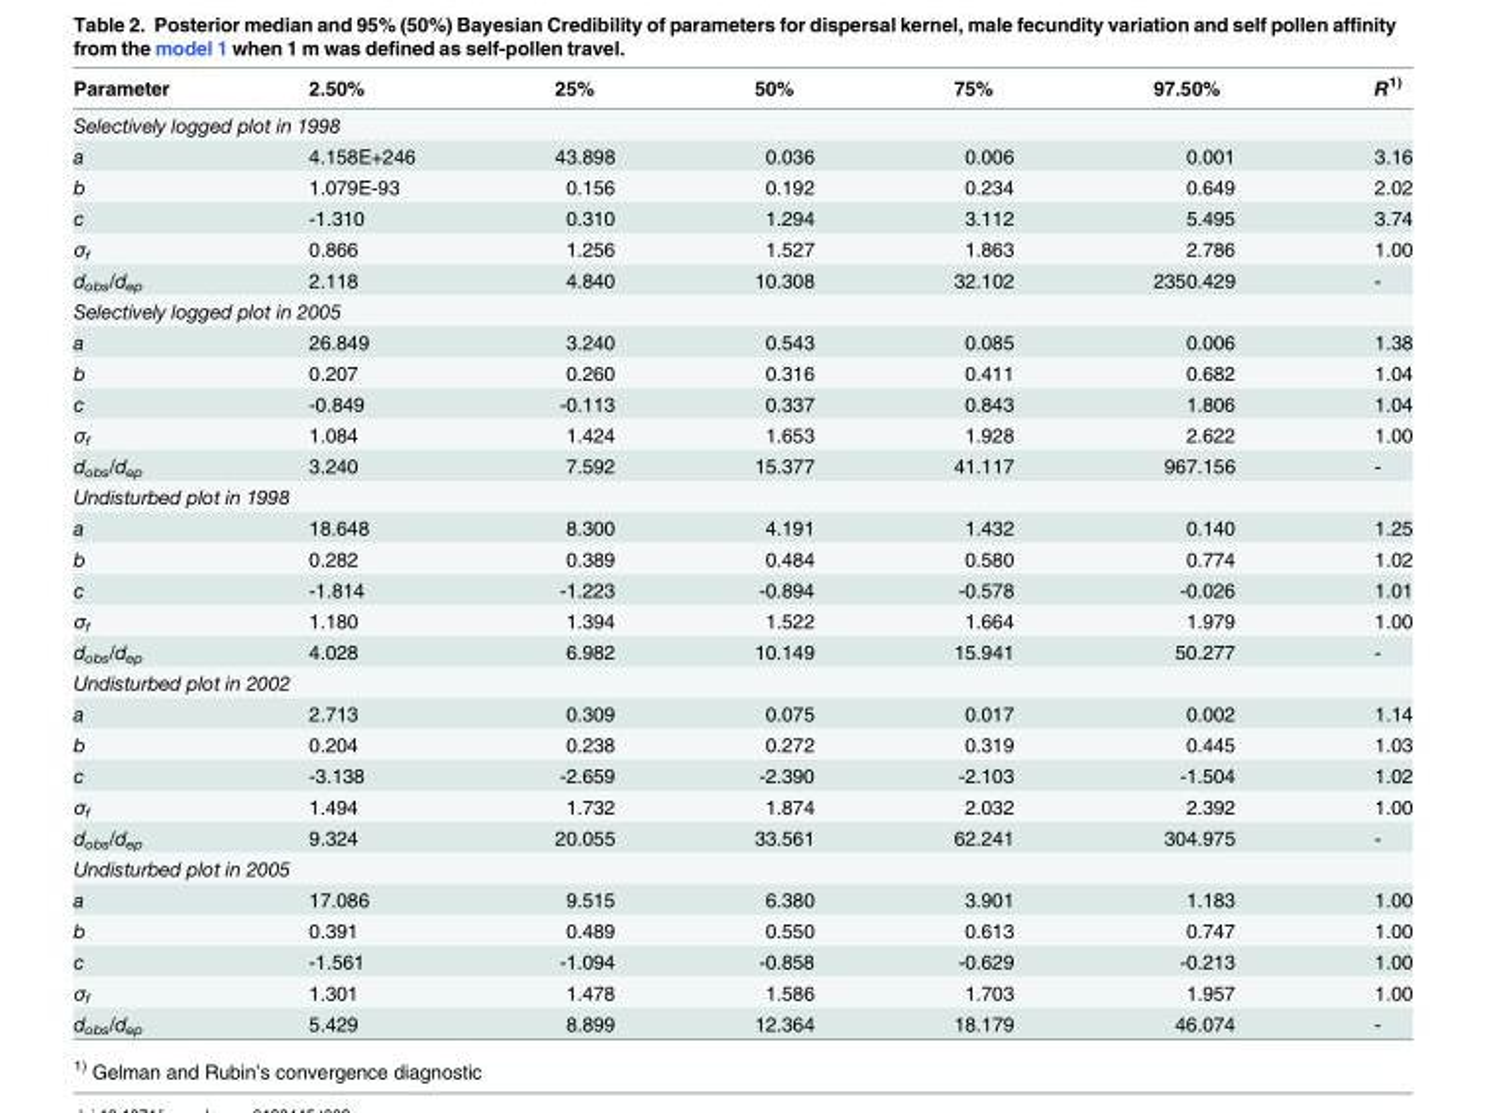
<table><thead><tr><td>Parameter</td><td>2.50%</td><td>25%</td><td>50%</td><td>75%</td><td>97.50%</td><td>R<sup>1)</sup></td></tr></thead><tbody><tr><td colspan="7">Selectively logged plot in 1998</td></tr><tr><td>a</td><td>4.158E+246</td><td>43.898</td><td>0.036</td><td>0.006</td><td>0.001</td><td>3.16</td></tr><tr><td>b</td><td>1.079E-93</td><td>0.156</td><td>0.192</td><td>0.234</td><td>0.649</td><td>2.02</td></tr><tr><td>c</td><td>-1.310</td><td>0.310</td><td>1.294</td><td>3.112</td><td>5.495</td><td>3.74</td></tr><tr><td>σ<sub>f</sub></td><td>0.866</td><td>1.256</td><td>1.527</td><td>1.863</td><td>2.786</td><td>1.00</td></tr><tr><td>d<sub>obs</sub>/d<sub>ep</sub></td><td>2.118</td><td>4.840</td><td>10.308</td><td>32.102</td><td>2350.429</td><td>-</td></tr><tr><td colspan="7">Selectively logged plot in 2005</td></tr><tr><td>a</td><td>26.849</td><td>3.240</td><td>0.543</td><td>0.085</td><td>0.006</td><td>1.38</td></tr><tr><td>b</td><td>0.207</td><td>0.260</td><td>0.316</td><td>0.411</td><td>0.682</td><td>1.04</td></tr><tr><td>c</td><td>-0.849</td><td>-0.113</td><td>0.337</td><td>0.843</td><td>1.806</td><td>1.04</td></tr><tr><td>σ<sub>f</sub></td><td>1.084</td><td>1.424</td><td>1.653</td><td>1.928</td><td>2.622</td><td>1.00</td></tr><tr><td>d<sub>obs</sub>/d<sub>ep</sub></td><td>3.240</td><td>7.592</td><td>15.377</td><td>41.117</td><td>967.156</td><td>-</td></tr><tr><td colspan="7">Undisturbed plot in 1998</td></tr><tr><td>a</td><td>18.648</td><td>8.300</td><td>4.191</td><td>1.432</td><td>0.140</td><td>1.25</td></tr><tr><td>b</td><td>0.282</td><td>0.389</td><td>0.484</td><td>0.580</td><td>0.774</td><td>1.02</td></tr><tr><td>c</td><td>-1.814</td><td>-1.223</td><td>-0.894</td><td>-0.578</td><td>-0.026</td><td>1.01</td></tr><tr><td>σ<sub>f</sub></td><td>1.180</td><td>1.394</td><td>1.522</td><td>1.664</td><td>1.979</td><td>1.00</td></tr><tr><td>d<sub>obs</sub>/d<sub>ep</sub></td><td>4.028</td><td>6.982</td><td>10.149</td><td>15.941</td><td>50.277</td><td>-</td></tr><tr><td colspan="7">Undisturbed plot in 2002</td></tr><tr><td>a</td><td>2.713</td><td>0.309</td><td>0.075</td><td>0.017</td><td>0.002</td><td>1.14</td></tr><tr><td>b</td><td>0.204</td><td>0.238</td><td>0.272</td><td>0.319</td><td>0.445</td><td>1.03</td></tr><tr><td>c</td><td>-3.138</td><td>-2.659</td><td>-2.390</td><td>-2.103</td><td>-1.504</td><td>1.02</td></tr><tr><td>σ<sub>f</sub></td><td>1.494</td><td>1.732</td><td>1.874</td><td>2.032</td><td>2.392</td><td>1.00</td></tr><tr><td>d<sub>obs</sub>/d<sub>ep</sub></td><td>9.324</td><td>20.055</td><td>33.561</td><td>62.241</td><td>304.975</td><td>-</td></tr><tr><td colspan="7">Undisturbed plot in 2005</td></tr><tr><td>a</td><td>17.086</td><td>9.515</td><td>6.380</td><td>3.901</td><td>1.183</td><td>1.00</td></tr><tr><td>b</td><td>0.391</td><td>0.489</td><td>0.550</td><td>0.613</td><td>0.747</td><td>1.00</td></tr><tr><td>c</td><td>-1.561</td><td>-1.094</td><td>-0.858</td><td>-0.629</td><td>-0.213</td><td>1.00</td></tr><tr><td>σ<sub>f</sub></td><td>1.301</td><td>1.478</td><td>1.586</td><td>1.703</td><td>1.957</td><td>1.00</td></tr><tr><td>d<sub>obs</sub>/d<sub>ep</sub></td><td>5.429</td><td>8.899</td><td>12.364</td><td>18.179</td><td>46.074</td><td>-</td></tr></tbody></table>